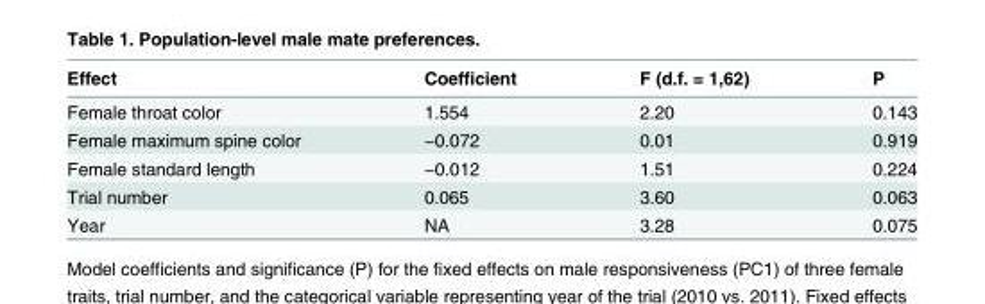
<table><thead><tr><td>Effect</td><td>Coefficient</td><td>F (d.f. = 1,62)</td><td>P</td></tr></thead><tbody><tr><td>Female throat color</td><td>1.554</td><td>2.20</td><td>0.143</td></tr><tr><td>Female maximum spine color</td><td>−0.072</td><td>0.01</td><td>0.919</td></tr><tr><td>Female standard length</td><td>−0.012</td><td>1.51</td><td>0.224</td></tr><tr><td>Trial number</td><td>0.065</td><td>3.60</td><td>0.063</td></tr><tr><td>Year</td><td>NA</td><td>3.28</td><td>0.075</td></tr></tbody></table>